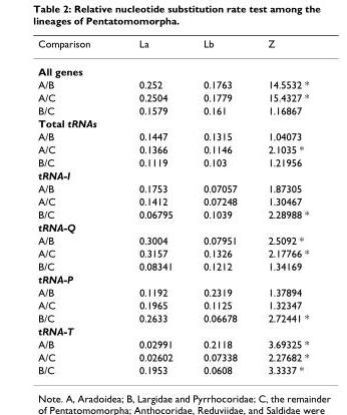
<table><thead><tr><td>Comparison</td><td>La</td><td>Lb</td><td>Z</td></tr></thead><tbody><tr><td colspan="4">All genes</td></tr><tr><td>A/B</td><td>0.252</td><td>0.1763</td><td>14.5532 *</td></tr><tr><td>A/C</td><td>0.2504</td><td>0.1779</td><td>15.4327 *</td></tr><tr><td>B/C</td><td>0.1579</td><td>0.161</td><td>1.16867</td></tr><tr><td colspan="4">Total tRNAs</td></tr><tr><td>A/B</td><td>0.1447</td><td>0.1315</td><td>1.04073</td></tr><tr><td>A/C</td><td>0.1366</td><td>0.1146</td><td>2.1035 *</td></tr><tr><td>B/C</td><td>0.1119</td><td>0.103</td><td>1.21956</td></tr><tr><td colspan="4">tRNA-I</td></tr><tr><td>A/B</td><td>0.1753</td><td>0.07057</td><td>1.87305</td></tr><tr><td>A/C</td><td>0.1412</td><td>0.07248</td><td>1.30467</td></tr><tr><td>B/C</td><td>0.06795</td><td>0.1039</td><td>2.28988 *</td></tr><tr><td colspan="4">tRNA-Q</td></tr><tr><td>A/B</td><td>0.3004</td><td>0.07951</td><td>2.5092 *</td></tr><tr><td>A/C</td><td>0.3157</td><td>0.1326</td><td>2.17766 *</td></tr><tr><td>B/C</td><td>0.08341</td><td>0.1212</td><td>1.34169</td></tr><tr><td colspan="4">tRNA-P</td></tr><tr><td>A/B</td><td>0.1192</td><td>0.2319</td><td>1.37894</td></tr><tr><td>A/C</td><td>0.1965</td><td>0.1125</td><td>1.32347</td></tr><tr><td>B/C</td><td>0.2633</td><td>0.06678</td><td>2.72441 *</td></tr><tr><td colspan="4">tRNA-T</td></tr><tr><td>A/B</td><td>0.02991</td><td>0.2118</td><td>3.69325 *</td></tr><tr><td>A/C</td><td>0.02602</td><td>0.07338</td><td>2.27682 *</td></tr><tr><td>B/C</td><td>0.1953</td><td>0.0608</td><td>3.3337 *</td></tr></tbody></table>